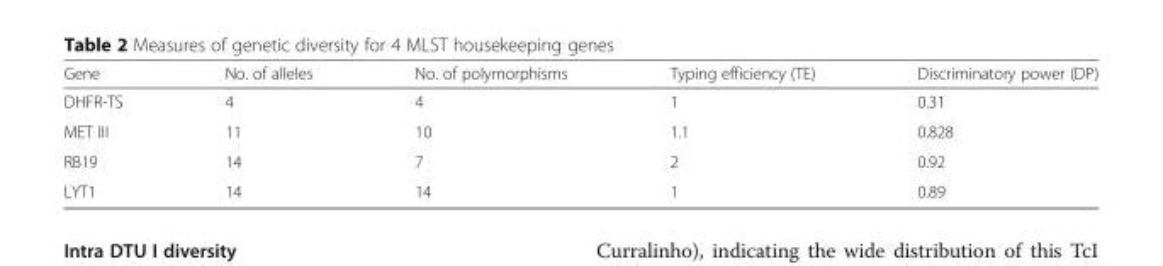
<table><thead><tr><td>Gene</td><td>No. of alleles</td><td>No. of polymorphisms</td><td>Typing efficiency (TE)</td><td>Discriminatory power (DP)</td></tr></thead><tbody><tr><td>DHFR-TS</td><td>4</td><td>4</td><td>1</td><td>0.31</td></tr><tr><td>MET III</td><td>11</td><td>10</td><td>1.1</td><td>0.828</td></tr><tr><td>RB19</td><td>14</td><td>7</td><td>2</td><td>0.92</td></tr><tr><td>LYT1</td><td>14</td><td>14</td><td>1</td><td>0.89</td></tr></tbody></table>